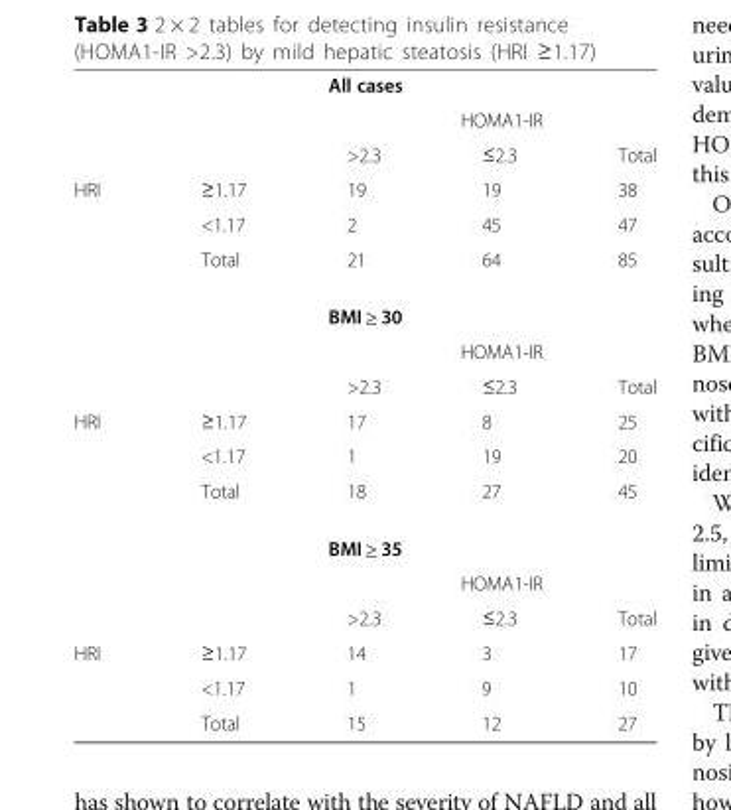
<table><tbody><tr><td colspan="5">All cases</td></tr><tr><td></td><td></td><td colspan="3">HOMA1-IR</td></tr><tr><td></td><td></td><td>&gt;2.3</td><td>≤2.3</td><td>Total</td></tr><tr><td rowspan="3">HRI</td><td>≥1.17</td><td>19</td><td>19</td><td>38</td></tr><tr><td>&lt;1.17</td><td>2</td><td>45</td><td>47</td></tr><tr><td>Total</td><td>21</td><td>64</td><td>85</td></tr><tr><td colspan="5">BMI ≥ 30</td></tr><tr><td></td><td></td><td colspan="3">HOMA1-IR</td></tr><tr><td></td><td></td><td>&gt;2.3</td><td>≤2.3</td><td>Total</td></tr><tr><td rowspan="3">HRI</td><td>≥1.17</td><td>17</td><td>8</td><td>25</td></tr><tr><td>&lt;1.17</td><td>1</td><td>19</td><td>20</td></tr><tr><td>Total</td><td>18</td><td>27</td><td>45</td></tr><tr><td colspan="5">BMI ≥ 35</td></tr><tr><td></td><td></td><td colspan="3">HOMA1-IR</td></tr><tr><td></td><td></td><td>&gt;2.3</td><td>≤2.3</td><td>Total</td></tr><tr><td rowspan="3">HRI</td><td>≥1.17</td><td>14</td><td>3</td><td>17</td></tr><tr><td>&lt;1.17</td><td>1</td><td>9</td><td>10</td></tr><tr><td>Total</td><td>15</td><td>12</td><td>27</td></tr></tbody></table>